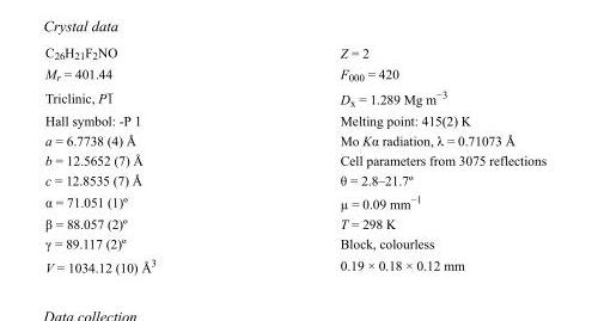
<table><tbody><tr><td>C<sub>26</sub>H<sub>21</sub>F<sub>2</sub>NO</td><td>Z = 2</td></tr><tr><td>M<sub>r</sub> = 401.44</td><td>F000 = 420</td></tr><tr><td>Triclinic, P1</td><td>D<sub>x</sub> = 1.289 Mg m<sup>−3</sup></td></tr><tr><td>Hall symbol: -P 1</td><td>Melting point: 415(2) K</td></tr><tr><td>a = 6.7738 (4) Å</td><td>Mo Kα radiation, λ = 0.71073 Å</td></tr><tr><td>b = 12.5652 (7) Å</td><td>Cell parameters from 3075 reflections</td></tr><tr><td>c = 12.8535 (7) Å</td><td>θ = 2.8–21.7º</td></tr><tr><td>α = 71.051 (1)º</td><td>µ = 0.09 mm<sup>−1</sup></td></tr><tr><td>β = 88.057 (2)º</td><td>T = 298 K</td></tr><tr><td>γ = 89.117 (2)º</td><td>Block, colourless</td></tr><tr><td>V = 1034.12 (10) Å<sup>3</sup></td><td>0.19 × 0.18 × 0.12 mm</td></tr></tbody></table>